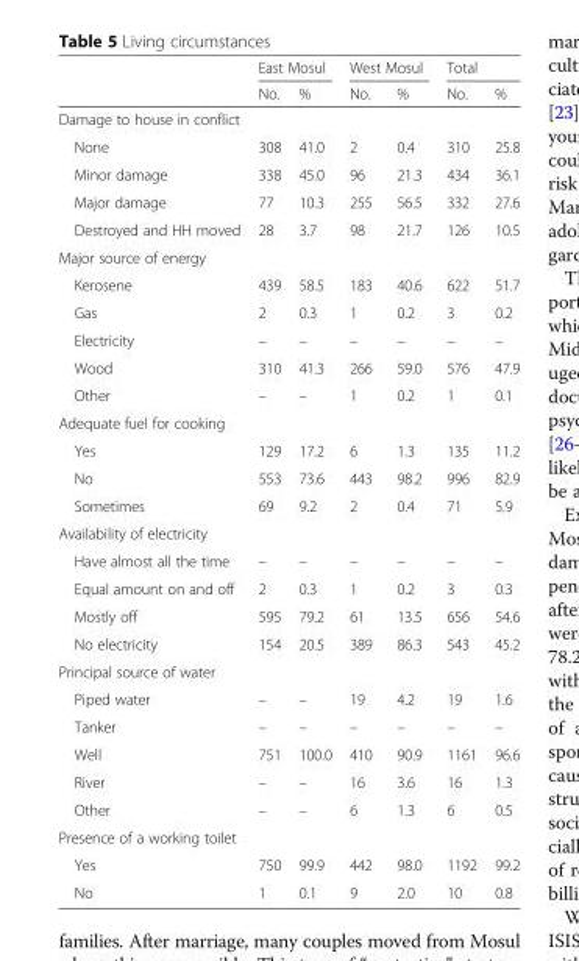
<table><thead><tr><td rowspan="2"></td><td colspan="2">East Mosul</td><td colspan="2">West Mosul</td><td colspan="2">Total</td></tr><tr><td>No.</td><td>%</td><td>No.</td><td>%</td><td>No.</td><td>%</td></tr></thead><tbody><tr><td colspan="7">Damage to house in conflict</td></tr><tr><td>None</td><td>308</td><td>41.0</td><td>2</td><td>0.4</td><td>310</td><td>25.8</td></tr><tr><td>Minor damage</td><td>338</td><td>45.0</td><td>96</td><td>21.3</td><td>434</td><td>36.1</td></tr><tr><td>Major damage</td><td>77</td><td>10.3</td><td>255</td><td>56.5</td><td>332</td><td>27.6</td></tr><tr><td>Destroyed and HH moved</td><td>28</td><td>3.7</td><td>98</td><td>21.7</td><td>126</td><td>10.5</td></tr><tr><td colspan="7">Major source of energy</td></tr><tr><td>Kerosene</td><td>439</td><td>58.5</td><td>183</td><td>40.6</td><td>622</td><td>51.7</td></tr><tr><td>Gas</td><td>2</td><td>0.3</td><td>1</td><td>0.2</td><td>3</td><td>0.2</td></tr><tr><td>Electricity</td><td>–</td><td>–</td><td>–</td><td>–</td><td>–</td><td>–</td></tr><tr><td>Wood</td><td>310</td><td>41.3</td><td>266</td><td>59.0</td><td>576</td><td>47.9</td></tr><tr><td>Other</td><td>–</td><td>–</td><td>1</td><td>0.2</td><td>1</td><td>0.1</td></tr><tr><td colspan="7">Adequate fuel for cooking</td></tr><tr><td>Yes</td><td>129</td><td>17.2</td><td>6</td><td>1.3</td><td>135</td><td>11.2</td></tr><tr><td>No</td><td>553</td><td>73.6</td><td>443</td><td>98.2</td><td>996</td><td>82.9</td></tr><tr><td>Sometimes</td><td>69</td><td>9.2</td><td>2</td><td>0.4</td><td>71</td><td>5.9</td></tr><tr><td colspan="7">Availability of electricity</td></tr><tr><td>Have almost all the time</td><td>–</td><td>–</td><td>–</td><td>–</td><td>–</td><td>–</td></tr><tr><td>Equal amount on and off</td><td>2</td><td>0.3</td><td>1</td><td>0.2</td><td>3</td><td>0.3</td></tr><tr><td>Mostly off</td><td>595</td><td>79.2</td><td>61</td><td>13.5</td><td>656</td><td>54.6</td></tr><tr><td>No electricity</td><td>154</td><td>20.5</td><td>389</td><td>86.3</td><td>543</td><td>45.2</td></tr><tr><td colspan="7">Principal source of water</td></tr><tr><td>Piped water</td><td>–</td><td>–</td><td>19</td><td>4.2</td><td>19</td><td>1.6</td></tr><tr><td>Tanker</td><td>–</td><td>–</td><td>–</td><td>–</td><td>–</td><td>–</td></tr><tr><td>Well</td><td>751</td><td>100.0</td><td>410</td><td>90.9</td><td>1161</td><td>96.6</td></tr><tr><td>River</td><td>–</td><td>–</td><td>16</td><td>3.6</td><td>16</td><td>1.3</td></tr><tr><td>Other</td><td>–</td><td>–</td><td>6</td><td>1.3</td><td>6</td><td>0.5</td></tr><tr><td colspan="7">Presence of a working toilet</td></tr><tr><td>Yes</td><td>750</td><td>99.9</td><td>442</td><td>98.0</td><td>1192</td><td>99.2</td></tr><tr><td>No</td><td>1</td><td>0.1</td><td>9</td><td>2.0</td><td>10</td><td>0.8</td></tr></tbody></table>